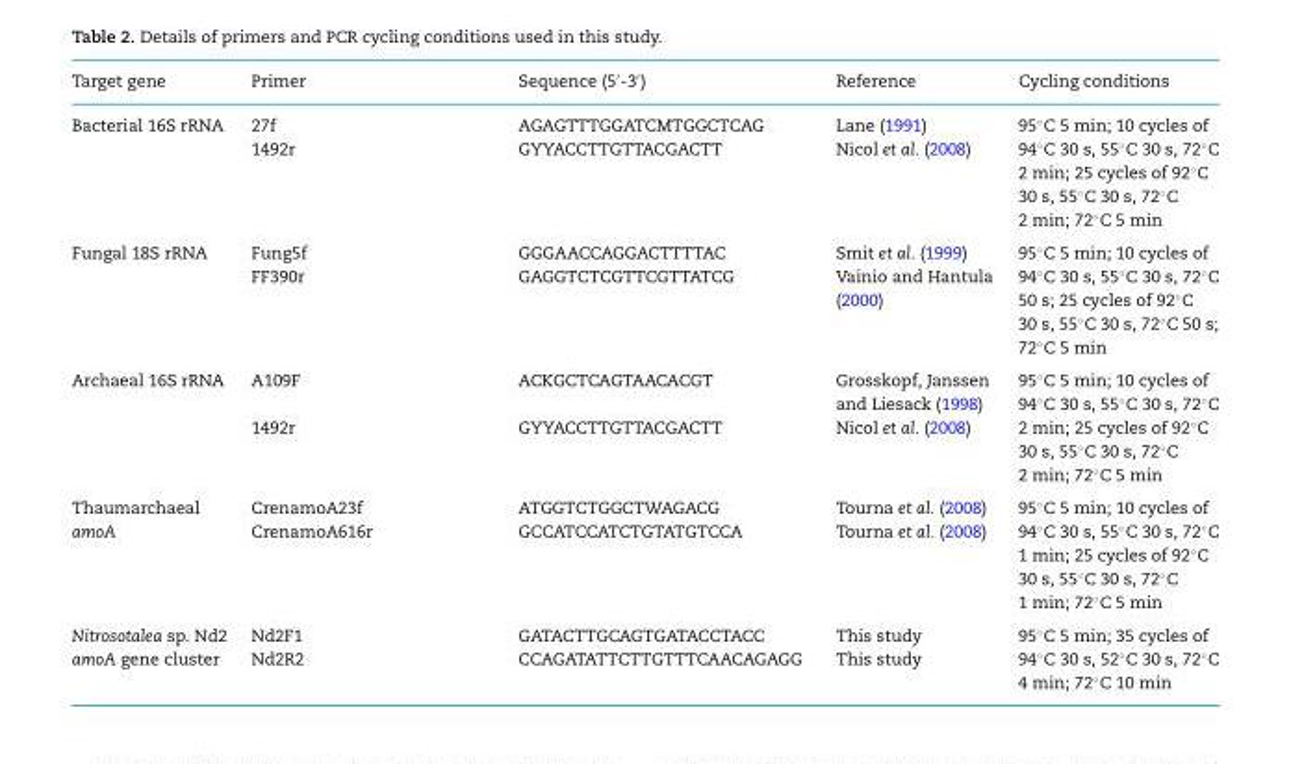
<table><thead><tr><td>Target gene</td><td>Primer</td><td>Sequence (5<sup>′</sup>-3<sup>′</sup>)</td><td>Reference</td><td>Cycling conditions</td></tr></thead><tbody><tr><td>Bacterial 16S rRNA</td><td>27f 1492r</td><td>AGAGTTTGGATCMTGGCTCAG GYYACCTTGTTACGACTT</td><td>Lane (1991) Nicol et al. (2008)</td><td>95◦C 5 min; 10 cycles of 94◦C 30 s, 55◦C 30 s, 72◦C 2 min; 25 cycles of 92◦C 30 s, 55◦C 30 s, 72◦C 2 min; 72◦C 5 min</td></tr><tr><td>Fungal 18S rRNA</td><td>Fung5f FF390r</td><td>GGGAACCAGGACTTTTAC GAGGTCTCGTTCGTTATCG</td><td>Smit et al. (1999) Vainio and Hantula (2000)</td><td>95◦C 5 min; 10 cycles of 94◦C 30 s, 55◦C 30 s, 72◦C 50 s; 25 cycles of 92◦C 30 s, 55◦C 30 s, 72◦C 50 s; 72◦C 5 min</td></tr><tr><td>Archaeal 16S rRNA</td><td>A109F 1492r</td><td>ACKGCTCAGTAACACGT GYYACCTTGTTACGACTT</td><td>Grosskopf, Janssen and Liesack (1998) Nicol et al. (2008)</td><td>95◦C 5 min; 10 cycles of 94◦C 30 s, 55◦C 30 s, 72◦C 2 min; 25 cycles of 92◦C 30 s, 55◦C 30 s, 72◦C 2 min; 72◦C 5 min</td></tr><tr><td>Thaumarchaeal amoA</td><td>CrenamoA23f CrenamoA616r</td><td>ATGGTCTGGCTWAGACG GCCATCCATCTGTATGTCCA</td><td>Tourna et al. (2008) Tourna et al. (2008)</td><td>95◦C 5 min; 10 cycles of 94◦C 30 s, 55◦C 30 s, 72◦C 1 min; 25 cycles of 92◦C 30 s, 55◦C 30 s, 72◦C 1 min; 72◦C 5 min</td></tr><tr><td>Nitrosotalea sp. Nd2 amoA gene cluster</td><td>Nd2F1 Nd2R2</td><td>GATACTTGCAGTGATACCTACC CCAGATATTCTTGTTTCAACAGAGG</td><td>This study This study</td><td>95◦C 5 min; 35 cycles of 94◦C 30 s, 52◦C 30 s, 72◦C 4 min; 72◦C 10 min</td></tr></tbody></table>